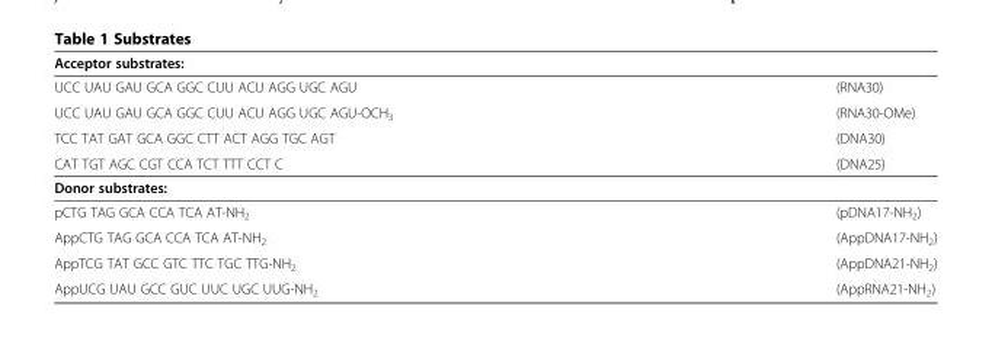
<table><thead><tr><td>Acceptor substrates:</td><td></td></tr></thead><tbody><tr><td>UCC UAU GAU GCA GGC CUU ACU AGG UGC AGU</td><td>(RNA30)</td></tr><tr><td>UCC UAU GAU GCA GGC CUU ACU AGG UGC AGU-OCH<sub>3</sub></td><td>(RNA30-OMe)</td></tr><tr><td>TCC TAT GAT GCA GGC CTT ACT AGG TGC AGT</td><td>(DNA30)</td></tr><tr><td>CAT TGT AGC CGT CCA TCT TTT CCT C</td><td>(DNA25)</td></tr><tr><td colspan="2">Donor substrates:</td></tr><tr><td>pCTG TAG GCA CCA TCA AT-NH<sub>2</sub></td><td>(pDNA17-NH<sub>2</sub>)</td></tr><tr><td>AppCTG TAG GCA CCA TCA AT-NH<sub>2</sub></td><td>(AppDNA17-NH<sub>2</sub>)</td></tr><tr><td>AppTCG TAT GCC GTC TTC TGC TTG-NH<sub>2</sub></td><td>(AppDNA21-NH<sub>2</sub>)</td></tr><tr><td>AppUCG UAU GCC GUC UUC UGC UUG-NH<sub>2</sub></td><td>(AppRNA21-NH<sub>2</sub>)</td></tr></tbody></table>